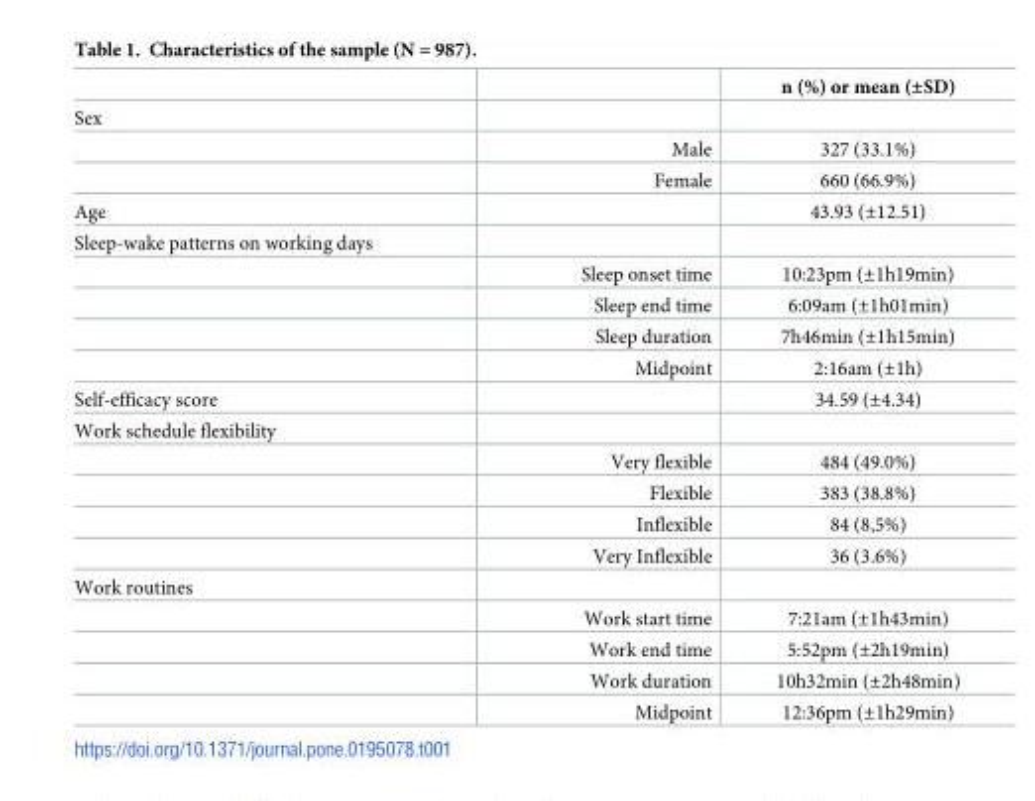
<table><thead><tr><td></td><td></td><td>n (%) or mean (±SD)</td></tr></thead><tbody><tr><td colspan="3">Sex</td></tr><tr><td></td><td>Male</td><td>327 (33.1%)</td></tr><tr><td></td><td>Female</td><td>660 (66.9%)</td></tr><tr><td>Age</td><td></td><td>43.93 (±12.51)</td></tr><tr><td colspan="3">Sleep-wake patterns on working days</td></tr><tr><td></td><td>Sleep onset time</td><td>10:23pm (±1h19min)</td></tr><tr><td></td><td>Sleep end time</td><td>6:09am (±1h01min)</td></tr><tr><td></td><td>Sleep duration</td><td>7h46min (±1h15min)</td></tr><tr><td></td><td>Midpoint</td><td>2:16am (±1h)</td></tr><tr><td>Self-efficacy score</td><td></td><td>34.59 (±4.34)</td></tr><tr><td colspan="3">Work schedule flexibility</td></tr><tr><td></td><td>Very flexible</td><td>484 (49.0%)</td></tr><tr><td></td><td>Flexible</td><td>383 (38.8%)</td></tr><tr><td></td><td>Inflexible</td><td>84 (8,5%)</td></tr><tr><td></td><td>Very Inflexible</td><td>36 (3.6%)</td></tr><tr><td colspan="3">Work routines</td></tr><tr><td></td><td>Work start time</td><td>7:21am (±1h43min)</td></tr><tr><td></td><td>Work end time</td><td>5:52pm (±2h19min)</td></tr><tr><td></td><td>Work duration</td><td>10h32min (±2h48min)</td></tr><tr><td></td><td>Midpoint</td><td>12:36pm (±1h29min)</td></tr></tbody></table>